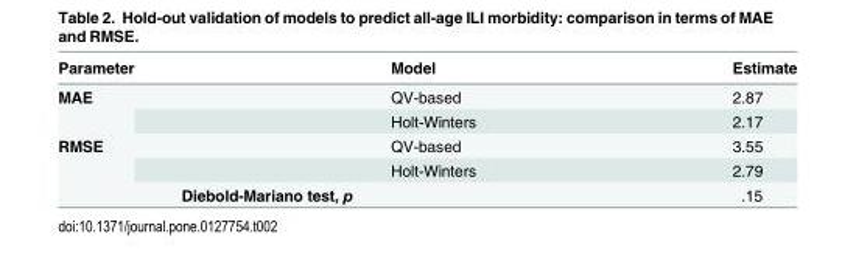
<table><thead><tr><td>Parameter</td><td>Model</td><td>Estimate</td></tr></thead><tbody><tr><td rowspan="2">MAE</td><td>QV-based</td><td>2.87</td></tr><tr><td>Holt-Winters</td><td>2.17</td></tr><tr><td rowspan="2">RMSE</td><td>QV-based</td><td>3.55</td></tr><tr><td>Holt-Winters</td><td>2.79</td></tr><tr><td colspan="2">Diebold-Mariano test, p</td><td>.15</td></tr></tbody></table>